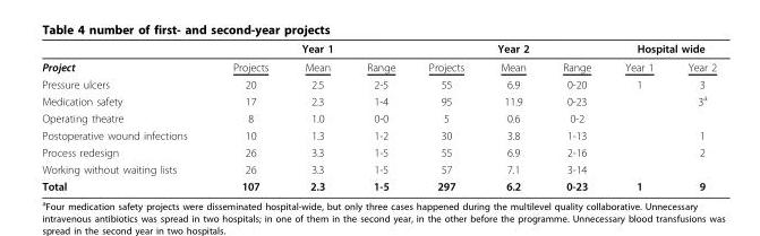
<table><thead><tr><td rowspan="2">Project</td><td rowspan="2">Projects</td><td rowspan="2">Year 1 Mean</td><td rowspan="2">Range</td><td rowspan="2">Projects</td><td rowspan="2">Year 2 Mean</td><td rowspan="2">Range</td><td colspan="2">Hospital wide</td></tr><tr><td>Year 1</td><td>Year 2</td></tr></thead><tbody><tr><td>Pressure ulcers</td><td>20</td><td>2.5</td><td>2-5</td><td>55</td><td>6.9</td><td>0-20</td><td>1</td><td>3</td></tr><tr><td>Medication safety</td><td>17</td><td>2.3</td><td>1-4</td><td>95</td><td>11.9</td><td>0-23</td><td></td><td>3<sup>a</sup></td></tr><tr><td>Operating theatre</td><td>8</td><td>1.0</td><td>0-0</td><td>5</td><td>0.6</td><td>0-2</td><td></td><td></td></tr><tr><td>Postoperative wound infections</td><td>10</td><td>1.3</td><td>1-2</td><td>30</td><td>3.8</td><td>1-13</td><td></td><td>1</td></tr><tr><td>Process redesign</td><td>26</td><td>3.3</td><td>1-5</td><td>55</td><td>6.9</td><td>2-16</td><td></td><td>2</td></tr><tr><td>Working without waiting lists</td><td>26</td><td>3.3</td><td>1-5</td><td>57</td><td>7.1</td><td>3-14</td><td></td><td></td></tr><tr><td>Total</td><td>107</td><td>2.3</td><td>1-5</td><td>297</td><td>6.2</td><td>0-23</td><td>1</td><td>9</td></tr></tbody></table>